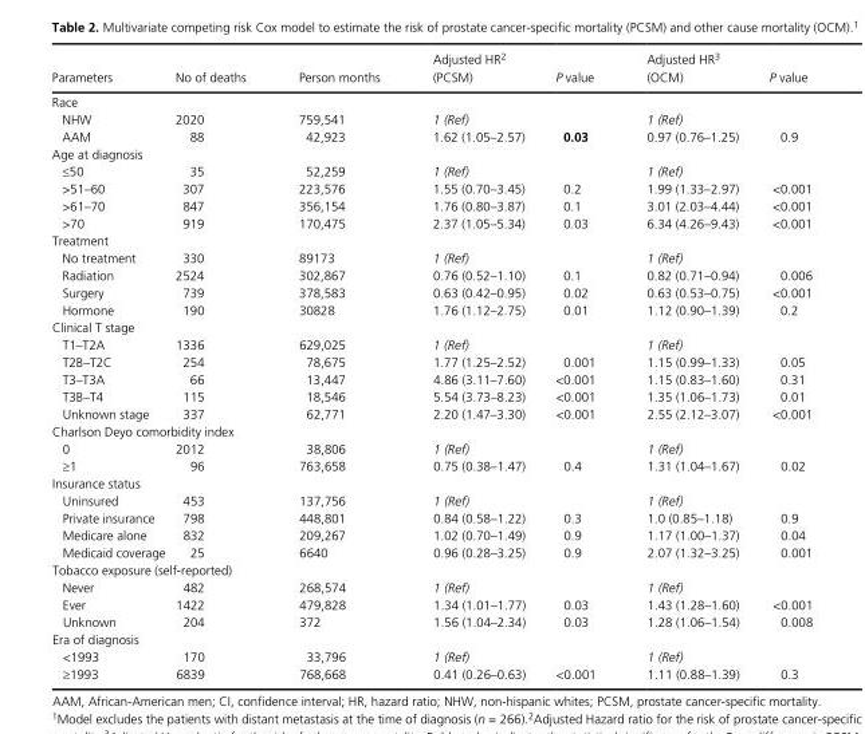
<table><thead><tr><td>Parameters</td><td>No of deaths</td><td>Person months</td><td>Adjusted HR2 (PCSM)</td><td>P value</td><td>Adjusted HR3 (OCM)</td><td>P value</td></tr></thead><tbody><tr><td colspan="7">Race</td></tr><tr><td>NHW</td><td>2020</td><td>759,541</td><td>1 (Ref)</td><td></td><td>1 (Ref)</td><td></td></tr><tr><td>AAM</td><td>88</td><td>42,923</td><td>1.62 (1.05–2.57)</td><td>0.03</td><td>0.97 (0.76–1.25)</td><td>0.9</td></tr><tr><td colspan="7">Age at diagnosis</td></tr><tr><td>≤50</td><td>35</td><td>52,259</td><td>1 (Ref)</td><td></td><td>1 (Ref)</td><td></td></tr><tr><td>&gt;51–60</td><td>307</td><td>223,576</td><td>1.55 (0.70–3.45)</td><td>0.2</td><td>1.99 (1.33–2.97)</td><td>&lt;0.001</td></tr><tr><td>&gt;61–70</td><td>847</td><td>356,154</td><td>1.76 (0.80–3.87)</td><td>0.1</td><td>3.01 (2.03–4.44)</td><td>&lt;0.001</td></tr><tr><td>&gt;70</td><td>919</td><td>170,475</td><td>2.37 (1.05–5.34)</td><td>0.03</td><td>6.34 (4.26–9.43)</td><td>&lt;0.001</td></tr><tr><td colspan="7">Treatment</td></tr><tr><td>No treatment</td><td>330</td><td>89173</td><td>1 (Ref)</td><td></td><td>1 (Ref)</td><td></td></tr><tr><td>Radiation</td><td>2524</td><td>302,867</td><td>0.76 (0.52–1.10)</td><td>0.1</td><td>0.82 (0.71–0.94)</td><td>0.006</td></tr><tr><td>Surgery</td><td>739</td><td>378,583</td><td>0.63 (0.42–0.95)</td><td>0.02</td><td>0.63 (0.53–0.75)</td><td>&lt;0.001</td></tr><tr><td>Hormone</td><td>190</td><td>30828</td><td>1.76 (1.12–2.75)</td><td>0.01</td><td>1.12 (0.90–1.39)</td><td>0.2</td></tr><tr><td colspan="7">Clinical T stage</td></tr><tr><td>T1–T2A</td><td>1336</td><td>629,025</td><td>1 (Ref)</td><td></td><td>1 (Ref)</td><td></td></tr><tr><td>T2B–T2C</td><td>254</td><td>78,675</td><td>1.77 (1.25–2.52)</td><td>0.001</td><td>1.15 (0.99–1.33)</td><td>0.05</td></tr><tr><td>T3–T3A</td><td>66</td><td>13,447</td><td>4.86 (3.11–7.60)</td><td>&lt;0.001</td><td>1.15 (0.83–1.60)</td><td>0.31</td></tr><tr><td>T3B–T4</td><td>115</td><td>18,546</td><td>5.54 (3.73–8.23)</td><td>&lt;0.001</td><td>1.35 (1.06–1.73)</td><td>0.01</td></tr><tr><td>Unknown stage</td><td>337</td><td>62,771</td><td>2.20 (1.47–3.30)</td><td>&lt;0.001</td><td>2.55 (2.12–3.07)</td><td>&lt;0.001</td></tr><tr><td colspan="7">Charlson Deyo comorbidity index</td></tr><tr><td>0</td><td>2012</td><td>38,806</td><td>1 (Ref)</td><td></td><td>1 (Ref)</td><td></td></tr><tr><td>≥1</td><td>96</td><td>763,658</td><td>0.75 (0.38–1.47)</td><td>0.4</td><td>1.31 (1.04–1.67)</td><td>0.02</td></tr><tr><td colspan="7">Insurance status</td></tr><tr><td>Uninsured</td><td>453</td><td>137,756</td><td>1 (Ref)</td><td></td><td>1 (Ref)</td><td></td></tr><tr><td>Private insurance</td><td>798</td><td>448,801</td><td>0.84 (0.58–1.22)</td><td>0.3</td><td>1.0 (0.85–1.18)</td><td>0.9</td></tr><tr><td>Medicare alone</td><td>832</td><td>209,267</td><td>1.02 (0.70–1.49)</td><td>0.9</td><td>1.17 (1.00–1.37)</td><td>0.04</td></tr><tr><td>Medicaid coverage</td><td>25</td><td>6640</td><td>0.96 (0.28–3.25)</td><td>0.9</td><td>2.07 (1.32–3.25)</td><td>0.001</td></tr><tr><td colspan="7">Tobacco exposure (self- reported)</td></tr><tr><td>Never</td><td>482</td><td>268,574</td><td>1 (Ref)</td><td></td><td>1 (Ref)</td><td></td></tr><tr><td>Ever</td><td>1422</td><td>479,828</td><td>1.34 (1.01–1.77)</td><td>0.03</td><td>1.43 (1.28–1.60)</td><td>&lt;0.001</td></tr><tr><td>Unknown</td><td>204</td><td>372</td><td>1.56 (1.04–2.34)</td><td>0.03</td><td>1.28 (1.06–1.54)</td><td>0.008</td></tr><tr><td colspan="7">Era of diagnosis</td></tr><tr><td>&lt;1993</td><td>170</td><td>33,796</td><td>1 (Ref)</td><td></td><td>1 (Ref)</td><td></td></tr><tr><td>≥1993</td><td>6839</td><td>768,668</td><td>0.41 (0.26–0.63)</td><td>&lt;0.001</td><td>1.11 (0.88–1.39)</td><td>0.3</td></tr></tbody></table>